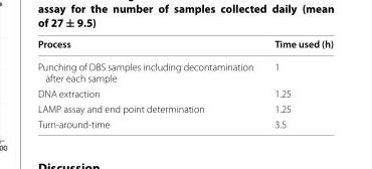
<table><thead><tr><td>Process</td><td>Time used (h)</td></tr></thead><tbody><tr><td>Punching of DBS samples including decontamination after each sample</td><td>1</td></tr><tr><td>DNA extraction</td><td>1.25</td></tr><tr><td>LAMP assay and end point determination</td><td>1.25</td></tr><tr><td>Turn‑around‑time</td><td>3.5</td></tr></tbody></table>